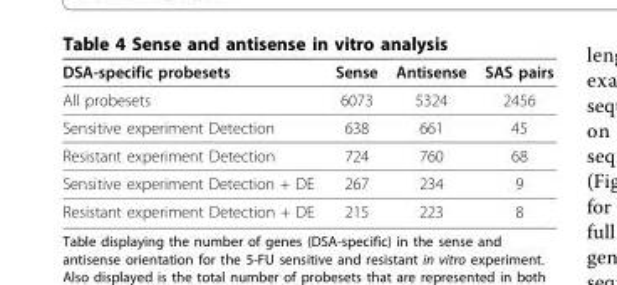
<table><thead><tr><td>DSA-specific probesets</td><td>Sense</td><td>Antisense</td><td>SAS pairs</td></tr></thead><tbody><tr><td>All probesets</td><td>6073</td><td>5324</td><td>2456</td></tr><tr><td>Sensitive experiment Detection</td><td>638</td><td>661</td><td>45</td></tr><tr><td>Resistant experiment Detection</td><td>724</td><td>760</td><td>68</td></tr><tr><td>Sensitive experiment Detection + DE</td><td>267</td><td>234</td><td>9</td></tr><tr><td>Resistant experiment Detection + DE</td><td>215</td><td>223</td><td>8</td></tr></tbody></table>